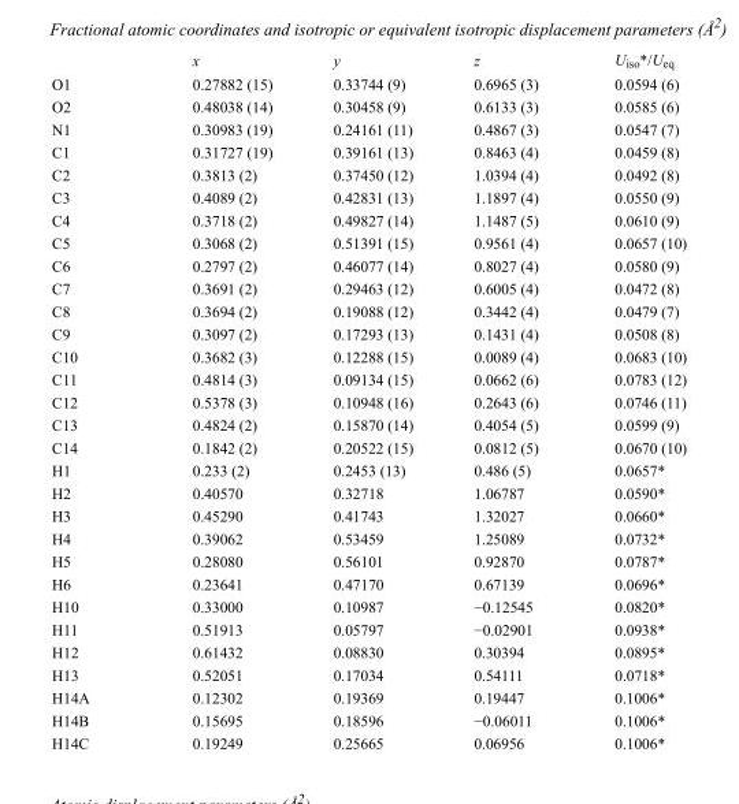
<table><thead><tr><td></td><td>x</td><td>y</td><td>z</td><td>U<sub>iso</sub>*/U<sub>eq</sub></td></tr></thead><tbody><tr><td>O1</td><td>0.27882 (15)</td><td>0.33744 (9)</td><td>0.6965 (3)</td><td>0.0594 (6)</td></tr><tr><td>O2</td><td>0.48038 (14)</td><td>0.30458 (9)</td><td>0.6133 (3)</td><td>0.0585 (6)</td></tr><tr><td>N1</td><td>0.30983 (19)</td><td>0.24161 (11)</td><td>0.4867 (3)</td><td>0.0547 (7)</td></tr><tr><td>C1</td><td>0.31727 (19)</td><td>0.39161 (13)</td><td>0.8463 (4)</td><td>0.0459 (8)</td></tr><tr><td>C2</td><td>0.3813 (2)</td><td>0.37450 (12)</td><td>1.0394 (4)</td><td>0.0492 (8)</td></tr><tr><td>C3</td><td>0.4089 (2)</td><td>0.42831 (13)</td><td>1.1897 (4)</td><td>0.0550 (9)</td></tr><tr><td>C4</td><td>0.3718 (2)</td><td>0.49827 (14)</td><td>1.1487 (5)</td><td>0.0610 (9)</td></tr><tr><td>C5</td><td>0.3068 (2)</td><td>0.51391 (15)</td><td>0.9561 (4)</td><td>0.0657 (10)</td></tr><tr><td>C6</td><td>0.2797 (2)</td><td>0.46077 (14)</td><td>0.8027 (4)</td><td>0.0580 (9)</td></tr><tr><td>C7</td><td>0.3691 (2)</td><td>0.29463 (12)</td><td>0.6005 (4)</td><td>0.0472 (8)</td></tr><tr><td>C8</td><td>0.3694 (2)</td><td>0.19088 (12)</td><td>0.3442 (4)</td><td>0.0479 (7)</td></tr><tr><td>C9</td><td>0.3097 (2)</td><td>0.17293 (13)</td><td>0.1431 (4)</td><td>0.0508 (8)</td></tr><tr><td>C10</td><td>0.3682 (3)</td><td>0.12288 (15)</td><td>0.0089 (4)</td><td>0.0683 (10)</td></tr><tr><td>C11</td><td>0.4814 (3)</td><td>0.09134 (15)</td><td>0.0662 (6)</td><td>0.0783 (12)</td></tr><tr><td>C12</td><td>0.5378 (3)</td><td>0.10948 (16)</td><td>0.2643 (6)</td><td>0.0746 (11)</td></tr><tr><td>C13</td><td>0.4824 (2)</td><td>0.15870 (14)</td><td>0.4054 (5)</td><td>0.0599 (9)</td></tr><tr><td>C14</td><td>0.1842 (2)</td><td>0.20522 (15)</td><td>0.0812 (5)</td><td>0.0670 (10)</td></tr><tr><td>H1</td><td>0.233 (2)</td><td>0.2453 (13)</td><td>0.486 (5)</td><td>0.0657*</td></tr><tr><td>H2</td><td>0.40570</td><td>0.32718</td><td>1.06787</td><td>0.0590*</td></tr><tr><td>H3</td><td>0.45290</td><td>0.41743</td><td>1.32027</td><td>0.0660*</td></tr><tr><td>H4</td><td>0.39062</td><td>0.53459</td><td>1.25089</td><td>0.0732*</td></tr><tr><td>H5</td><td>0.28080</td><td>0.56101</td><td>0.92870</td><td>0.0787*</td></tr><tr><td>H6</td><td>0.23641</td><td>0.47170</td><td>0.67139</td><td>0.0696*</td></tr><tr><td>H10</td><td>0.33000</td><td>0.10987</td><td>−0.12545</td><td>0.0820*</td></tr><tr><td>H11</td><td>0.51913</td><td>0.05797</td><td>−0.02901</td><td>0.0938*</td></tr><tr><td>H12</td><td>0.61432</td><td>0.08830</td><td>0.30394</td><td>0.0895*</td></tr><tr><td>H13</td><td>0.52051</td><td>0.17034</td><td>0.54111</td><td>0.0718*</td></tr><tr><td>H14A</td><td>0.12302</td><td>0.19369</td><td>0.19447</td><td>0.1006*</td></tr><tr><td>H14B</td><td>0.15695</td><td>0.18596</td><td>−0.06011</td><td>0.1006*</td></tr><tr><td>H14C</td><td>0.19249</td><td>0.25665</td><td>0.06956</td><td>0.1006*</td></tr></tbody></table>